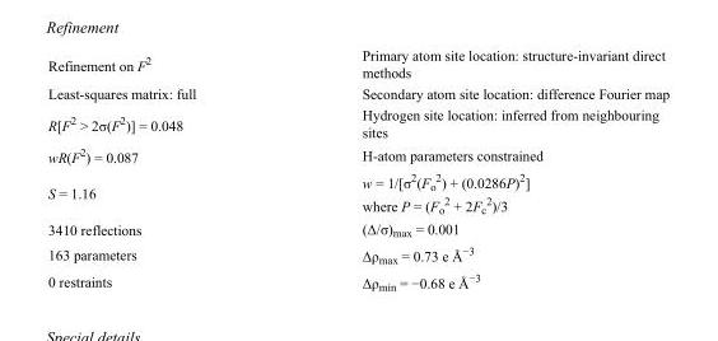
<table><tbody><tr><td>Refinement on F<sup>2</sup></td><td>Primary atom site location: structure-invariant direct methods</td></tr><tr><td>Least-squares matrix: full</td><td>Secondary atom site location: difference Fourier map</td></tr><tr><td>R[F<sup>2</sup> &gt; 2σ(F<sup>2</sup>)] = 0.048</td><td>Hydrogen site location: inferred from neighbouring sites</td></tr><tr><td>wR(F<sup>2</sup>) = 0.087</td><td>H-atom parameters constrained</td></tr><tr><td>S = 1.16</td><td>w = 1/[σ<sup>2</sup>(F<sub>o</sub> <sup>2</sup>) + (0.0286P)<sup>2</sup>] where P = (F<sub>o</sub> <sup>2</sup> + 2F<sub>c</sub> <sup>2</sup>)/3</td></tr><tr><td>3410 reflections</td><td>(Δ/σ)<sub>max</sub> = 0.001</td></tr><tr><td>163 parameters</td><td>Δρ<sub>max</sub> = 0.73 e Å<sup>−3</sup></td></tr><tr><td>0 restraints</td><td>Δρ<sub>min</sub> = −0.68 e Å<sup>−3</sup></td></tr></tbody></table>